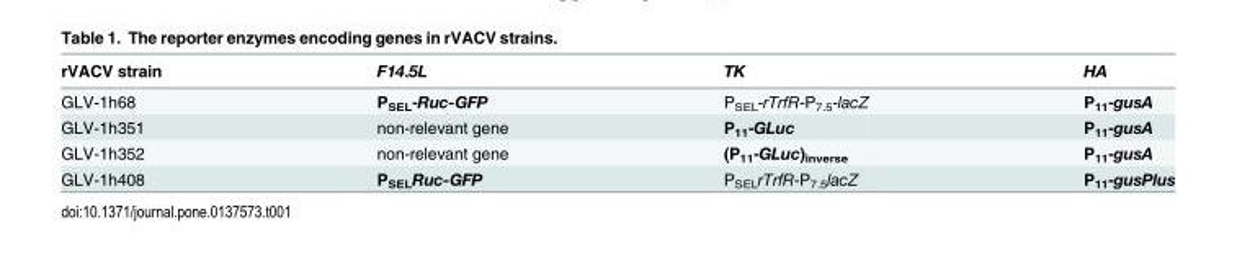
<table><thead><tr><td>rVACV strain</td><td>F14.5L</td><td>TK</td><td>HA</td></tr></thead><tbody><tr><td>GLV-1h68</td><td>P<sub>SEL</sub>-Ruc-GFP</td><td>P<sub>SEL</sub>-rTrfR-P<sub>7.5</sub>-lacZ</td><td>P<sub>11</sub>-gusA</td></tr><tr><td>GLV-1h351</td><td>non-relevant gene</td><td>P<sub>11</sub>-GLuc</td><td>P<sub>11</sub>-gusA</td></tr><tr><td>GLV-1h352</td><td>non-relevant gene</td><td>(P<sub>11</sub>-GLuc)<sub>inverse</sub></td><td>P<sub>11</sub>-gusA</td></tr><tr><td>GLV-1h408</td><td>P<sub>SEL</sub>Ruc-GFP</td><td>P<sub>SEL</sub>rTrfR-P<sub>7.5</sub>lacZ</td><td>P<sub>11</sub>-gusPlus</td></tr></tbody></table>